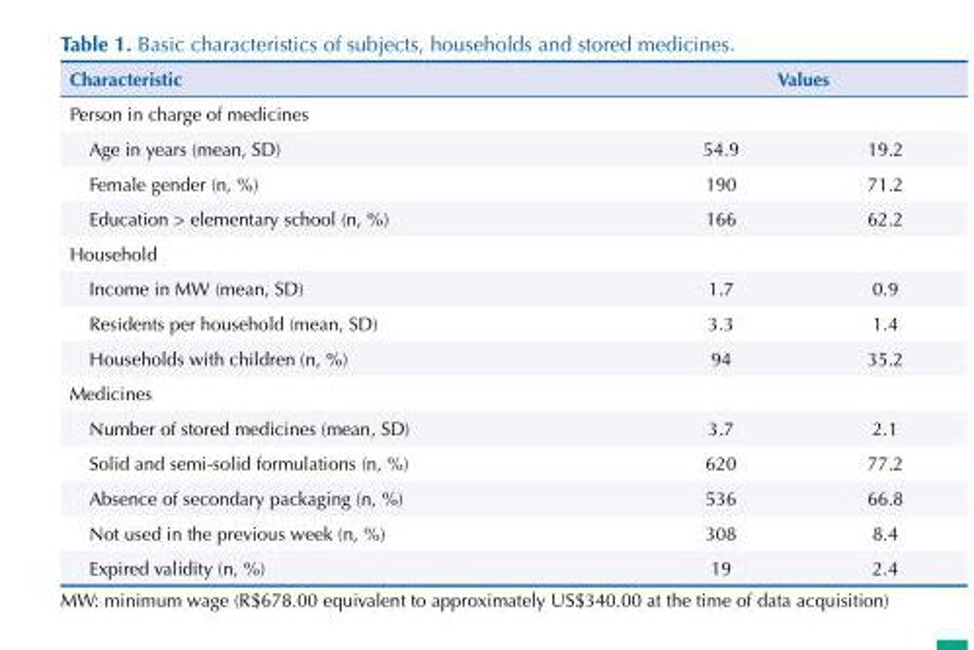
<table><thead><tr><td rowspan="2">Characteristic Person in charge of medicines</td><td colspan="2">Values</td></tr><tr><td></td><td></td></tr></thead><tbody><tr><td>Age in years (mean, SD)</td><td>54.9</td><td>19.2</td></tr><tr><td>Female gender (n, %)</td><td>190</td><td>71.2</td></tr><tr><td>Education &gt; elementary school (n, %)</td><td>166</td><td>62.2</td></tr><tr><td colspan="3">Household</td></tr><tr><td>Income in MW (mean, SD)</td><td>1.7</td><td>0.9</td></tr><tr><td>Residents per household (mean, SD)</td><td>3.3</td><td>1.4</td></tr><tr><td>Households with children (n, %)</td><td>94</td><td>35.2</td></tr><tr><td colspan="3">Medicines</td></tr><tr><td>Number of stored medicines (mean, SD)</td><td>3.7</td><td>2.1</td></tr><tr><td>Solid and semi-solid formulations (n, %)</td><td>620</td><td>77.2</td></tr><tr><td>Absence of secondary packaging (n, %)</td><td>536</td><td>66.8</td></tr><tr><td>Not used in the previous week (n, %)</td><td>308</td><td>8.4</td></tr><tr><td>Expired validity (n, %)</td><td>19</td><td>2.4</td></tr></tbody></table>